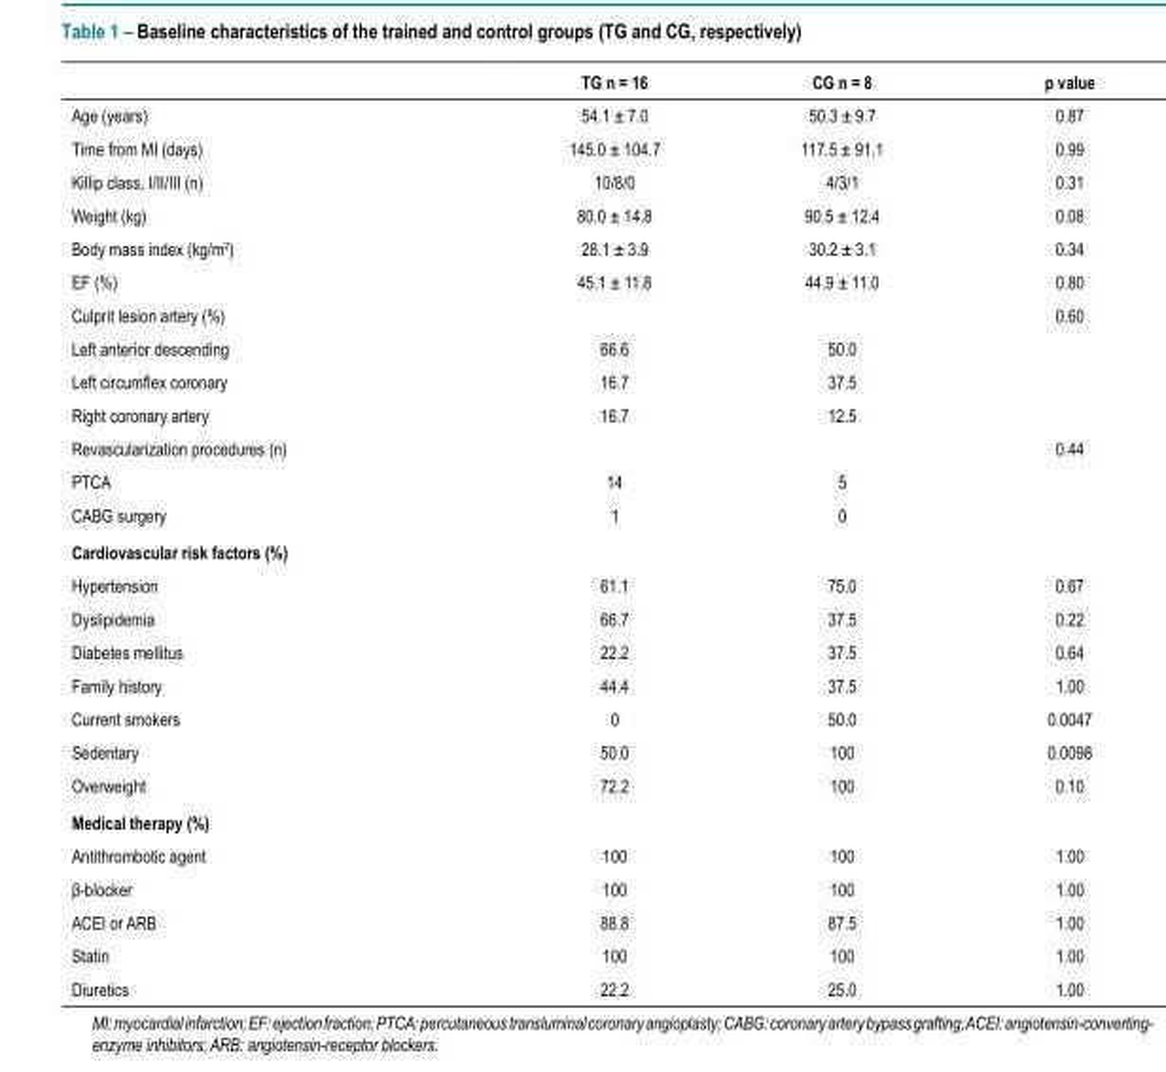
<table><thead><tr><td></td><td>TG n = 16</td><td>CG n = 8</td><td>p value</td></tr></thead><tbody><tr><td>Age (years)</td><td>54.1 ± 7.0</td><td>50.3 ± 9.7</td><td>0.87</td></tr><tr><td>Time from MI (days)</td><td>145.0 ± 104.7</td><td>117.5 ± 91.1</td><td>0.99</td></tr><tr><td>Killip class, I/II/III (n)</td><td>10/8/0</td><td>4/3/1</td><td>0.31</td></tr><tr><td>Weight (kg)</td><td>80.0 ± 14.8</td><td>90.5 ± 12.4</td><td>0.08</td></tr><tr><td>Body mass index (kg/m<sup>2</sup>)</td><td>28.1 ± 3.9</td><td>30.2 ± 3.1</td><td>0.34</td></tr><tr><td>EF (%)</td><td>45.1 ± 11.8</td><td>44.9 ± 11.0</td><td>0.80</td></tr><tr><td>Culprit lesion artery (%)</td><td></td><td></td><td>0.60</td></tr><tr><td>Left anterior descending</td><td>66.6</td><td>50.0</td><td></td></tr><tr><td>Left circumflex coronary</td><td>16.7</td><td>37.5</td><td></td></tr><tr><td>Right coronary artery</td><td>16.7</td><td>12.5</td><td></td></tr><tr><td>Revascularization procedures (n)</td><td></td><td></td><td>0.44</td></tr><tr><td>PTCA</td><td>14</td><td>5</td><td></td></tr><tr><td>CABG surgery</td><td>1</td><td>0</td><td></td></tr><tr><td colspan="4">Cardiovascular risk factors (%)</td></tr><tr><td>Hypertension</td><td>61.1</td><td>75.0</td><td>0.67</td></tr><tr><td>Dyslipidemia</td><td>66.7</td><td>37.5</td><td>0.22</td></tr><tr><td>Diabetes mellitus</td><td>22.2</td><td>37.5</td><td>0.64</td></tr><tr><td>Family history</td><td>44.4</td><td>37.5</td><td>1.00</td></tr><tr><td>Current smokers</td><td>0</td><td>50.0</td><td>0.0047</td></tr><tr><td>Sedentary</td><td>50.0</td><td>100</td><td>0.0098</td></tr><tr><td>Overweight</td><td>72.2</td><td>100</td><td>0.10</td></tr><tr><td colspan="4">Medical therapy (%)</td></tr><tr><td>Antithrombotic agent</td><td>100</td><td>100</td><td>1.00</td></tr><tr><td>β-blocker</td><td>100</td><td>100</td><td>1.00</td></tr><tr><td>ACEI or ARB</td><td>88.8</td><td>87.5</td><td>1.00</td></tr><tr><td>Statin</td><td>100</td><td>100</td><td>1.00</td></tr><tr><td>Diuretics</td><td>22.2</td><td>25.0</td><td>1.00</td></tr></tbody></table>